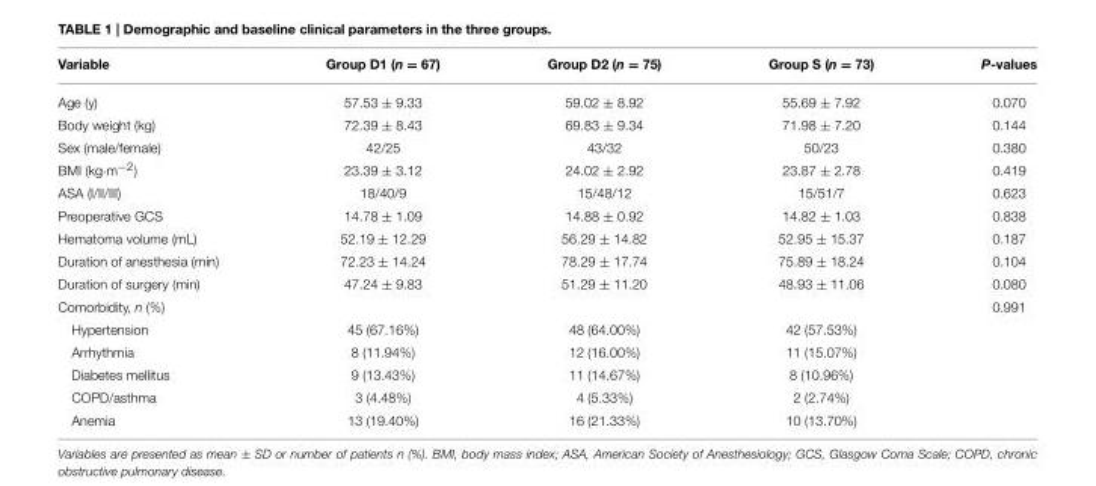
<table><thead><tr><td>Variable</td><td>Group D1 (n = 67)</td><td>Group D2 (n = 75)</td><td>Group S (n = 73)</td><td>P-values</td></tr></thead><tbody><tr><td>Age (y)</td><td>57.53 ± 9.33</td><td>59.02 ± 8.92</td><td>55.69 ± 7.92</td><td>0.070</td></tr><tr><td>Body weight (kg)</td><td>72.39 ± 8.43</td><td>69.83 ± 9.34</td><td>71.98 ± 7.20</td><td>0.144</td></tr><tr><td>Sex (male/female)</td><td>42/25</td><td>43/32</td><td>50/23</td><td>0.380</td></tr><tr><td>BMI (kg·m<sup>−2</sup>)</td><td>23.39 ± 3.12</td><td>24.02 ± 2.92</td><td>23.87 ± 2.78</td><td>0.419</td></tr><tr><td>ASA (I/II/III)</td><td>18/40/9</td><td>15/48/12</td><td>15/51/7</td><td>0.623</td></tr><tr><td>Preoperative GCS</td><td>14.78 ± 1.09</td><td>14.88 ± 0.92</td><td>14.82 ± 1.03</td><td>0.838</td></tr><tr><td>Hematoma volume (mL)</td><td>52.19 ± 12.29</td><td>56.29 ± 14.82</td><td>52.95 ± 15.37</td><td>0.187</td></tr><tr><td>Duration of anesthesia (min)</td><td>72.23 ± 14.24</td><td>78.29 ± 17.74</td><td>75.89 ± 18.24</td><td>0.104</td></tr><tr><td>Duration of surgery (min)</td><td>47.24 ± 9.83</td><td>51.29 ± 11.20</td><td>48.93 ± 11.06</td><td>0.080</td></tr><tr><td>Comorbidity, n (%)</td><td></td><td></td><td></td><td>0.991</td></tr><tr><td>Hypertension</td><td>45 (67.16%)</td><td>48 (64.00%)</td><td>42 (57.53%)</td><td></td></tr><tr><td>Arrhythmia</td><td>8 (11.94%)</td><td>12 (16.00%)</td><td>11 (15.07%)</td><td></td></tr><tr><td>Diabetes mellitus</td><td>9 (13.43%)</td><td>11 (14.67%)</td><td>8 (10.96%)</td><td></td></tr><tr><td>COPD/asthma</td><td>3 (4.48%)</td><td>4 (5.33%)</td><td>2 (2.74%)</td><td></td></tr><tr><td>Anemia</td><td>13 (19.40%)</td><td>16 (21.33%)</td><td>10 (13.70%)</td><td></td></tr></tbody></table>